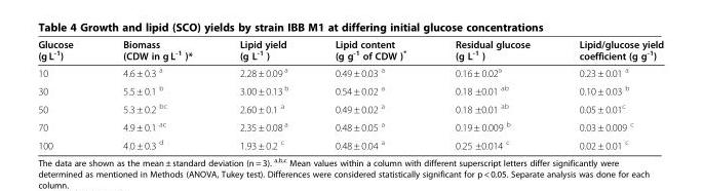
<table><thead><tr><td>Glucose (g L<sup>-1</sup>)</td><td>Biomass (CDW in g L<sup>-1</sup> )*</td><td>Lipid yield (g L<sup>-1</sup> )</td><td>Lipid content (g g<sup>-1</sup> of CDW )*</td><td>Residual glucose (g L<sup>-1</sup> )</td><td>Lipid/glucose yield coefficient (g g<sup>-1</sup>)</td></tr></thead><tbody><tr><td>10</td><td>4.6 ± 0.3 <sup>a</sup></td><td>2.28 ± 0.09 <sup>a</sup></td><td>0.49 ± 0.03 <sup>a</sup></td><td>0.16 ± 0.02<sup>a</sup></td><td>0.23 ± 0.01 <sup>a</sup></td></tr><tr><td>30</td><td>5.5 ± 0.1 <sup>b</sup></td><td>3.00 ± 0.13 <sup>b</sup></td><td>0.54 ± 0.02 <sup>a</sup></td><td>0.18 ±0.01 <sup>ab</sup></td><td>0.10 ± 0.03 <sup>b</sup></td></tr><tr><td>50</td><td>5.3 ± 0.2 <sup>bc</sup></td><td>2.60 ± 0.1 <sup>a</sup></td><td>0.49 ± 0.02 <sup>a</sup></td><td>0.18 ±0.01 <sup>ab</sup></td><td>0.05 ± 0.01<sup>c</sup></td></tr><tr><td>70</td><td>4.9 ± 0.1 <sup>ac</sup></td><td>2.35 ± 0.08 <sup>a</sup></td><td>0.48 ± 0.05 <sup>a</sup></td><td>0.19 ± 0.009 <sup>b</sup></td><td>0.03 ± 0.009 <sup>c</sup></td></tr><tr><td>100</td><td>4.0 ± 0.3 <sup>d</sup></td><td>1.93 ± 0.2 <sup>c</sup></td><td>0.48 ± 0.04 <sup>a</sup></td><td>0.25 ±0.014 <sup>c</sup></td><td>0.02 ± 0.01 <sup>c</sup></td></tr></tbody></table>